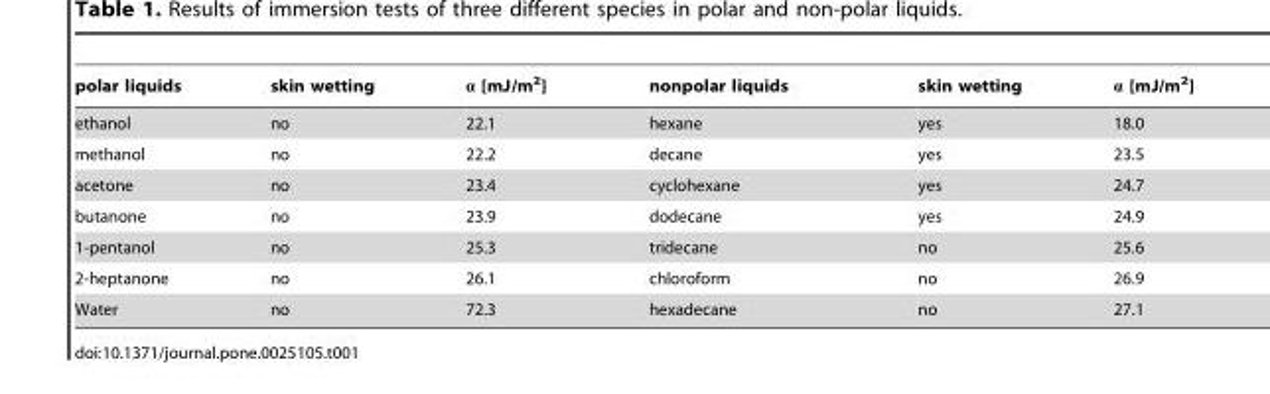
<table><thead><tr><td>polar liquids</td><td>skin wetting</td><td>α [mJ/m<sup>2</sup>]</td><td>nonpolar liquids</td><td>skin wetting</td><td>α [mJ/m<sup>2</sup>]</td></tr></thead><tbody><tr><td>ethanol</td><td>no</td><td>22.1</td><td>hexane</td><td>yes</td><td>18.0</td></tr><tr><td>methanol</td><td>no</td><td>22.2</td><td>decane</td><td>yes</td><td>23.5</td></tr><tr><td>acetone</td><td>no</td><td>23.4</td><td>cyclohexane</td><td>yes</td><td>24.7</td></tr><tr><td>butanone</td><td>no</td><td>23.9</td><td>dodecane</td><td>yes</td><td>24.9</td></tr><tr><td>1-pentanol</td><td>no</td><td>25.3</td><td>tridecane</td><td>no</td><td>25.6</td></tr><tr><td>2-heptanone</td><td>no</td><td>26.1</td><td>chloroform</td><td>no</td><td>26.9</td></tr><tr><td>Water</td><td>no</td><td>72.3</td><td>hexadecane</td><td>no</td><td>27.1</td></tr></tbody></table>